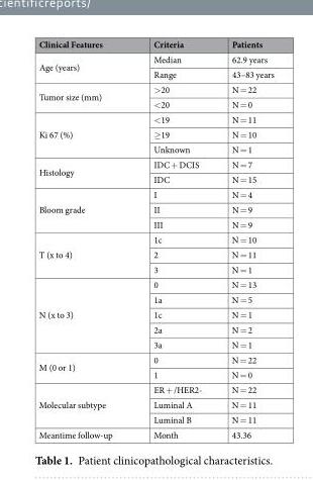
<table><thead><tr><td>Clinical Features</td><td>Criteria</td><td>Patients</td></tr></thead><tbody><tr><td rowspan="2">Age (years)</td><td>Median</td><td>62.9 years</td></tr><tr><td>Range</td><td>43–83 years</td></tr><tr><td rowspan="2">Tumor size (mm)</td><td>&gt;20</td><td>N = 22</td></tr><tr><td>&lt;20</td><td>N = 0</td></tr><tr><td rowspan="3">Ki 67 (%)</td><td>&lt;19</td><td>N = 11</td></tr><tr><td>≥19</td><td>N = 10</td></tr><tr><td>Unknown</td><td>N = 1</td></tr><tr><td rowspan="2">Histology</td><td>IDC + DCIS</td><td>N = 7</td></tr><tr><td>IDC</td><td>N = 15</td></tr><tr><td rowspan="3">Bloom grade</td><td>I</td><td>N = 4</td></tr><tr><td>II</td><td>N = 9</td></tr><tr><td>III</td><td>N = 9</td></tr><tr><td rowspan="3">T (x to 4)</td><td>1c</td><td>N = 10</td></tr><tr><td>2</td><td>N = 11</td></tr><tr><td>3</td><td>N = 1</td></tr><tr><td rowspan="5">N (x to 3)</td><td>0</td><td>N = 13</td></tr><tr><td>1a</td><td>N = 5</td></tr><tr><td>1c</td><td>N = 1</td></tr><tr><td>2a</td><td>N = 2</td></tr><tr><td>3a</td><td>N = 1</td></tr><tr><td rowspan="2">M (0 or 1)</td><td>0</td><td>N = 22</td></tr><tr><td>1</td><td>N = 0</td></tr><tr><td rowspan="3">Molecular subtype</td><td>ER + /HER2-</td><td>N = 22</td></tr><tr><td>Luminal A</td><td>N = 11</td></tr><tr><td>Luminal B</td><td>N = 11</td></tr><tr><td>Meantime follow-up</td><td>Month</td><td>43.36</td></tr></tbody></table>